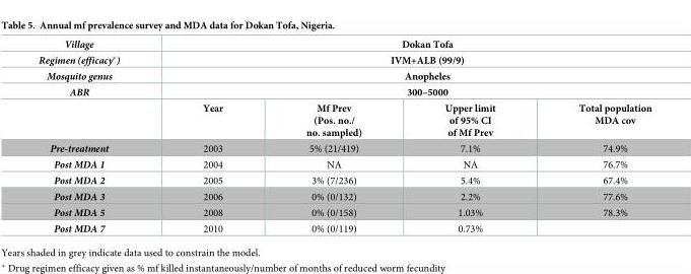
<table><thead><tr><td rowspan="5">Village Regimen (efficacy*) Mosquito genus ABR</td><td rowspan="4" colspan="4">Dokan Tofa IVM+ALB (99/9) Anopheles 300–5000</td></tr><tr></tr><tr></tr><tr></tr><tr><td>Year</td><td>Mf Prev (Pos. no./ no. sampled)</td><td>Upper limit of 95% CI of Mf Prev</td><td>Total population MDA cov</td></tr></thead><tbody><tr><td>Pre-treatment</td><td>2003</td><td>5% (21/419)</td><td>7.1%</td><td>74.9%</td></tr><tr><td>Post MDA 1</td><td>2004</td><td>NA</td><td>NA</td><td>76.7%</td></tr><tr><td>Post MDA 2</td><td>2005</td><td>3% (7/236)</td><td>5.4%</td><td>67.4%</td></tr><tr><td>Post MDA 3</td><td>2006</td><td>0% (0/132)</td><td>2.2%</td><td>77.6%</td></tr><tr><td>Post MDA 5</td><td>2008</td><td>0% (0/158)</td><td>1.03%</td><td>78.3%</td></tr><tr><td>Post MDA 7</td><td>2010</td><td>0% (0/119)</td><td>0.73%</td><td></td></tr></tbody></table>